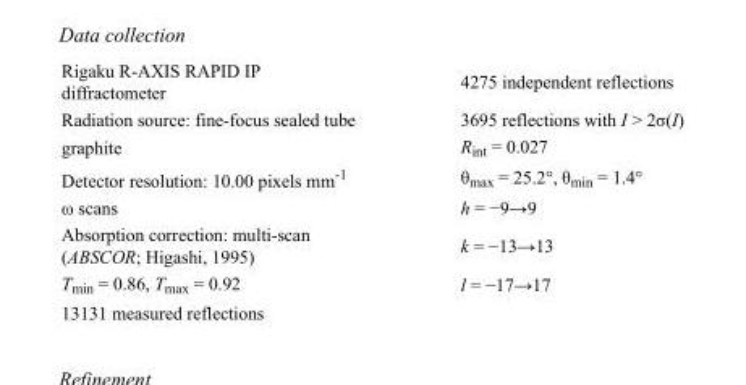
<table><tbody><tr><td>Rigaku R-AXIS RAPID IP diffractometer</td><td>4275 independent reflections</td></tr><tr><td>Radiation source: fine-focus sealed tube</td><td>3695 reflections with I &gt; 2σ(I)</td></tr><tr><td>graphite</td><td>R<sub>int</sub> = 0.027</td></tr><tr><td>Detector resolution: 10.00 pixels mm<sup>-1</sup></td><td>θ<sub>max</sub> = 25.2°, θ<sub>min</sub> = 1.4°</td></tr><tr><td>ω scans</td><td>h = −9→9</td></tr><tr><td>Absorption correction: multi-scan (ABSCOR; Higashi, 1995)</td><td>k = −13→13</td></tr><tr><td>T<sub>min</sub> = 0.86, T<sub>max</sub> = 0.92</td><td>l = −17→17</td></tr><tr><td>13131 measured reflections</td><td></td></tr></tbody></table>